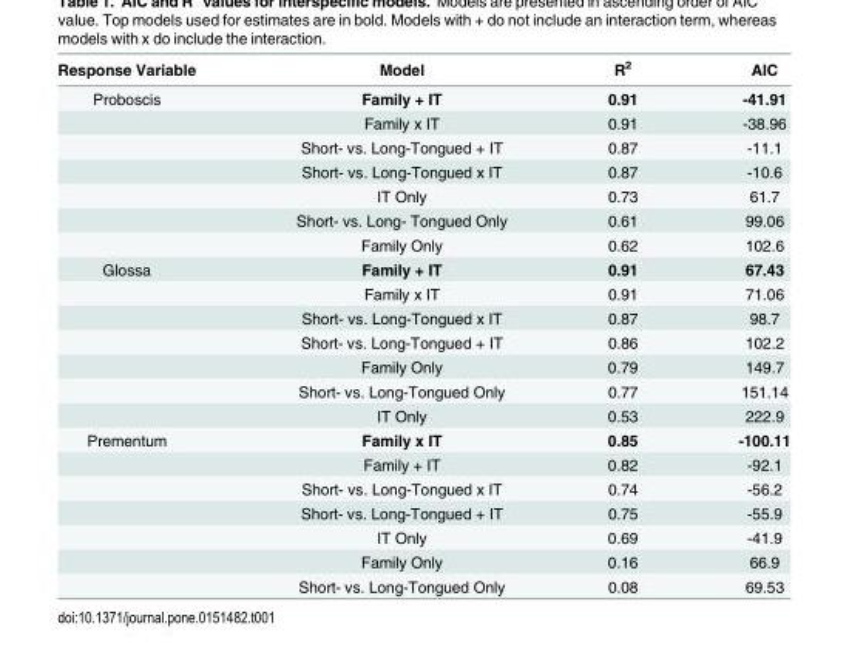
<table><thead><tr><td>Response Variable</td><td>Model</td><td>R<sup>2</sup></td><td>AIC</td></tr></thead><tbody><tr><td rowspan="7">Proboscis</td><td>Family + IT</td><td>0.91</td><td>-41.91</td></tr><tr><td>Family x IT</td><td>0.91</td><td>-38.96</td></tr><tr><td>Short- vs. Long-Tongued + IT</td><td>0.87</td><td>-11.1</td></tr><tr><td>Short- vs. Long-Tongued x IT</td><td>0.87</td><td>-10.6</td></tr><tr><td>IT Only</td><td>0.73</td><td>61.7</td></tr><tr><td>Short- vs. Long- Tongued Only</td><td>0.61</td><td>99.06</td></tr><tr><td>Family Only</td><td>0.62</td><td>102.6</td></tr><tr><td rowspan="7">Glossa</td><td>Family + IT</td><td>0.91</td><td>67.43</td></tr><tr><td>Family x IT</td><td>0.91</td><td>71.06</td></tr><tr><td>Short- vs. Long-Tongued x IT</td><td>0.87</td><td>98.7</td></tr><tr><td>Short- vs. Long-Tongued + IT</td><td>0.86</td><td>102.2</td></tr><tr><td>Family Only</td><td>0.79</td><td>149.7</td></tr><tr><td>Short- vs. Long-Tongued Only</td><td>0.77</td><td>151.14</td></tr><tr><td>IT Only</td><td>0.53</td><td>222.9</td></tr><tr><td rowspan="7">Prementum</td><td>Family x IT</td><td>0.85</td><td>-100.11</td></tr><tr><td>Family + IT</td><td>0.82</td><td>-92.1</td></tr><tr><td>Short- vs. Long-Tongued x IT</td><td>0.74</td><td>-56.2</td></tr><tr><td>Short- vs. Long-Tongued + IT</td><td>0.75</td><td>-55.9</td></tr><tr><td>IT Only</td><td>0.69</td><td>-41.9</td></tr><tr><td>Family Only</td><td>0.16</td><td>66.9</td></tr><tr><td>Short- vs. Long-Tongued Only</td><td>0.08</td><td>69.53</td></tr></tbody></table>